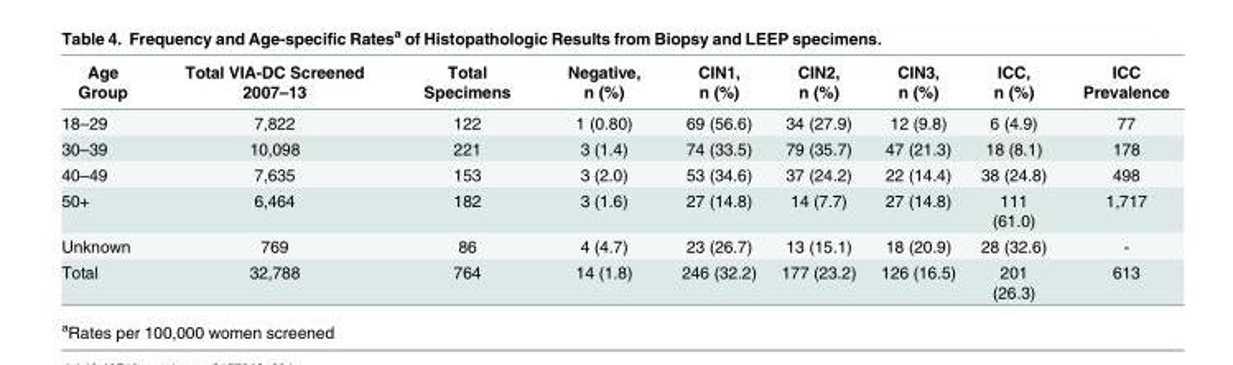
<table><thead><tr><td>Age Group</td><td>Total VIA-DC Screened 2007–13</td><td>Total Specimens</td><td>Negative, n (%)</td><td>CIN1, n (%)</td><td>CIN2, n (%)</td><td>CIN3, n (%)</td><td>ICC, n (%)</td><td>ICC Prevalence</td></tr></thead><tbody><tr><td>18–29</td><td>7,822</td><td>122</td><td>1 (0.80)</td><td>69 (56.6)</td><td>34 (27.9)</td><td>12 (9.8)</td><td>6 (4.9)</td><td>77</td></tr><tr><td>30–39</td><td>10,098</td><td>221</td><td>3 (1.4)</td><td>74 (33.5)</td><td>79 (35.7)</td><td>47 (21.3)</td><td>18 (8.1)</td><td>178</td></tr><tr><td>40–49</td><td>7,635</td><td>153</td><td>3 (2.0)</td><td>53 (34.6)</td><td>37 (24.2)</td><td>22 (14.4)</td><td>38 (24.8)</td><td>498</td></tr><tr><td>50+</td><td>6,464</td><td>182</td><td>3 (1.6)</td><td>27 (14.8)</td><td>14 (7.7)</td><td>27 (14.8)</td><td>111 (61.0)</td><td>1,717</td></tr><tr><td>Unknown</td><td>769</td><td>86</td><td>4 (4.7)</td><td>23 (26.7)</td><td>13 (15.1)</td><td>18 (20.9)</td><td>28 (32.6)</td><td>-</td></tr><tr><td>Total</td><td>32,788</td><td>764</td><td>14 (1.8)</td><td>246 (32.2)</td><td>177 (23.2)</td><td>126 (16.5)</td><td>201 (26.3)</td><td>613</td></tr></tbody></table>